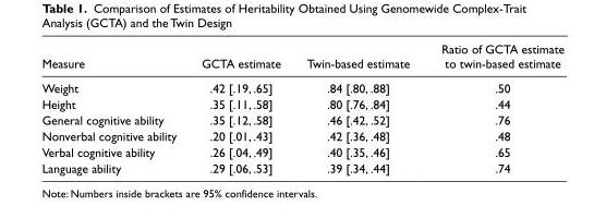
<table><thead><tr><td>Measure</td><td>GCTA estimate</td><td>Twin-based estimate</td><td>Ratio of GCTA estimate to twin-based estimate</td></tr></thead><tbody><tr><td>Weight</td><td>.42 [.19, .65]</td><td>.84 [.80, .88]</td><td>.50</td></tr><tr><td>Height</td><td>.35 [.11, .58]</td><td>.80 [.76, .84]</td><td>.44</td></tr><tr><td>General cognitive ability</td><td>.35 [.12, .58]</td><td>.46 [.42, .52]</td><td>.76</td></tr><tr><td>Nonverbal cognitive ability</td><td>.20 [.01, .43]</td><td>.42 [.36, .48]</td><td>.48</td></tr><tr><td>Verbal cognitive ability</td><td>.26 [.04, .49]</td><td>.40 [.35, .46]</td><td>.65</td></tr><tr><td>Language ability</td><td>.29 [.06, .53]</td><td>.39 [.34, .44]</td><td>.74</td></tr></tbody></table>